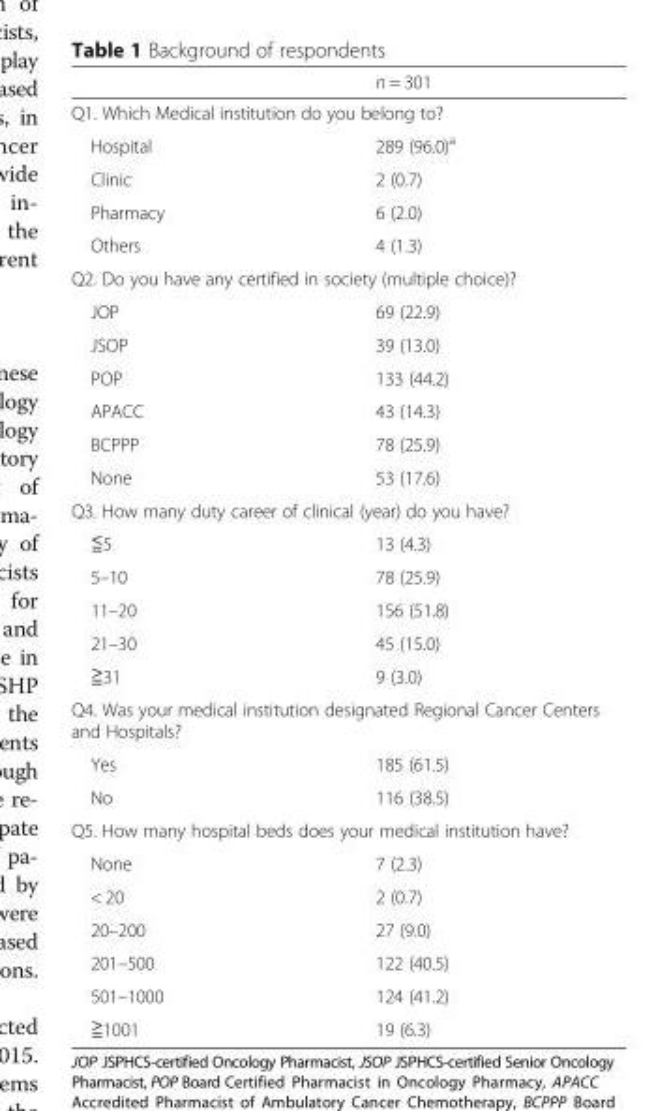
<table><thead><tr><td></td><td>n = 301</td></tr></thead><tbody><tr><td colspan="2">Q1. Which Medical institution do you belong to?</td></tr><tr><td>Hospital</td><td>289 (96.0)<sup>a</sup></td></tr><tr><td>Clinic</td><td>2 (0.7)</td></tr><tr><td>Pharmacy</td><td>6 (2.0)</td></tr><tr><td>Others</td><td>4 (1.3)</td></tr><tr><td colspan="2">Q2. Do you have any certified in society (multiple choice)?</td></tr><tr><td>JOP</td><td>69 (22.9)</td></tr><tr><td>JSOP</td><td>39 (13.0)</td></tr><tr><td>POP</td><td>133 (44.2)</td></tr><tr><td>APACC</td><td>43 (14.3)</td></tr><tr><td>BCPPP</td><td>78 (25.9)</td></tr><tr><td>None</td><td>53 (17.6)</td></tr><tr><td colspan="2">Q3. How many duty career of clinical (year) do you have?</td></tr><tr><td>≦5</td><td>13 (4.3)</td></tr><tr><td>5–10</td><td>78 (25.9)</td></tr><tr><td>11–20</td><td>156 (51.8)</td></tr><tr><td>21–30</td><td>45 (15.0)</td></tr><tr><td>≧31</td><td>9 (3.0)</td></tr><tr><td colspan="2">Q4. Was your medical institution designated Regional Cancer Centers and Hospitals?</td></tr><tr><td>Yes</td><td>185 (61.5)</td></tr><tr><td>No</td><td>116 (38.5)</td></tr><tr><td colspan="2">Q5. How many hospital beds does your medical institution have?</td></tr><tr><td>None</td><td>7 (2.3)</td></tr><tr><td>&lt; 20</td><td>2 (0.7)</td></tr><tr><td>20–200</td><td>27 (9.0)</td></tr><tr><td>201–500</td><td>122 (40.5)</td></tr><tr><td>501–1000</td><td>124 (41.2)</td></tr><tr><td>≧1001</td><td>19 (6.3)</td></tr></tbody></table>